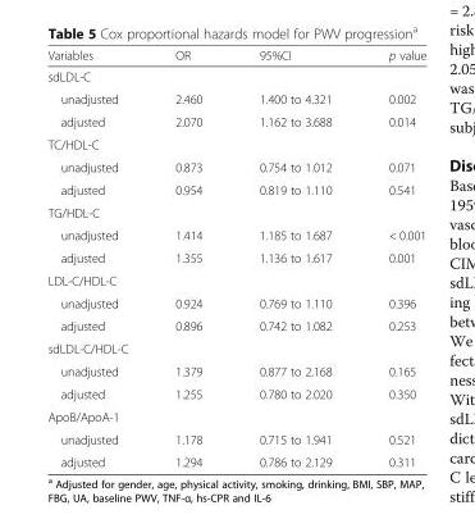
<table><thead><tr><td>Variables</td><td>OR</td><td>95%CI</td><td>p value</td></tr></thead><tbody><tr><td colspan="4">sdLDL-C</td></tr><tr><td>unadjusted</td><td>2.460</td><td>1.400 to 4.321</td><td>0.002</td></tr><tr><td>adjusted</td><td>2.070</td><td>1.162 to 3.688</td><td>0.014</td></tr><tr><td colspan="4">TC/HDL-C</td></tr><tr><td>unadjusted</td><td>0.873</td><td>0.754 to 1.012</td><td>0.071</td></tr><tr><td>adjusted</td><td>0.954</td><td>0.819 to 1.110</td><td>0.541</td></tr><tr><td colspan="4">TG/HDL-C</td></tr><tr><td>unadjusted</td><td>1.414</td><td>1.185 to 1.687</td><td>&lt; 0.001</td></tr><tr><td>adjusted</td><td>1.355</td><td>1.136 to 1.617</td><td>0.001</td></tr><tr><td colspan="4">LDL-C/HDL-C</td></tr><tr><td>unadjusted</td><td>0.924</td><td>0.769 to 1.110</td><td>0.396</td></tr><tr><td>adjusted</td><td>0.896</td><td>0.742 to 1.082</td><td>0.253</td></tr><tr><td colspan="4">sdLDL-C/HDL-C</td></tr><tr><td>unadjusted</td><td>1.379</td><td>0.877 to 2.168</td><td>0.165</td></tr><tr><td>adjusted</td><td>1.255</td><td>0.780 to 2.020</td><td>0.350</td></tr><tr><td colspan="4">ApoB/ApoA-1</td></tr><tr><td>unadjusted</td><td>1.178</td><td>0.715 to 1.941</td><td>0.521</td></tr><tr><td>adjusted</td><td>1.294</td><td>0.786 to 2.129</td><td>0.311</td></tr></tbody></table>